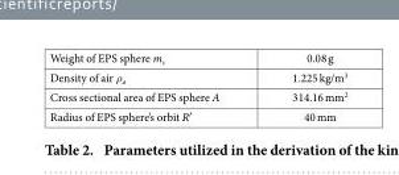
<table><tbody><tr><td>Weight of EPS sphere m<sub>s</sub></td><td>0.08 g</td></tr><tr><td>Density of air ρ<sub>a</sub></td><td>1.225 kg/m<sup>3</sup></td></tr><tr><td>Cross sectional area of EPS sphere A</td><td>314.16 mm<sup>2</sup></td></tr><tr><td>Radius of EPS sphere’s orbit R′</td><td>40 mm</td></tr></tbody></table>